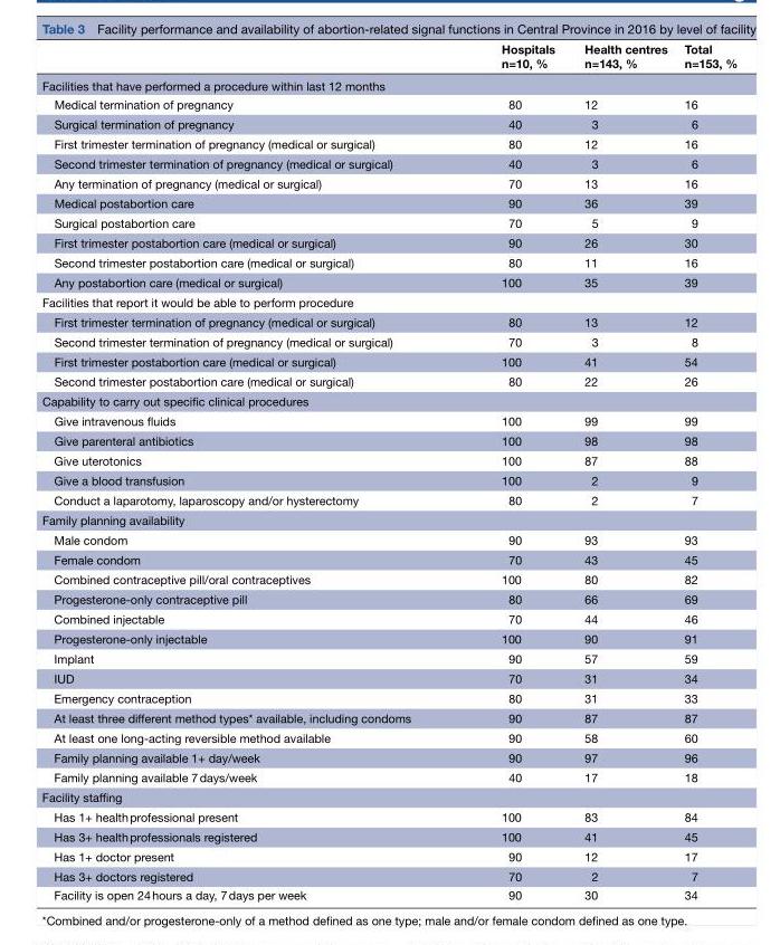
<table><thead><tr><td></td><td>Hospitals n=10, %</td><td>Health centres n=143, %</td><td>Total n=153, %</td></tr></thead><tbody><tr><td colspan="4">Facilities that have performed a procedure within last 12 months</td></tr><tr><td>Medical termination of pregnancy</td><td>80</td><td>12</td><td>16</td></tr><tr><td>Surgical termination of pregnancy</td><td>40</td><td>3</td><td>6</td></tr><tr><td>First trimester termination of pregnancy (medical or surgical)</td><td>80</td><td>12</td><td>16</td></tr><tr><td>Second trimester termination of pregnancy (medical or surgical)</td><td>40</td><td>3</td><td>6</td></tr><tr><td>Any termination of pregnancy (medical or surgical)</td><td>70</td><td>13</td><td>16</td></tr><tr><td>Medical postabortion care</td><td>90</td><td>36</td><td>39</td></tr><tr><td>Surgical postabortion care</td><td>70</td><td>5</td><td>9</td></tr><tr><td>First trimester postabortion care (medical or surgical)</td><td>90</td><td>26</td><td>30</td></tr><tr><td>Second trimester postabortion care (medical or surgical)</td><td>80</td><td>11</td><td>16</td></tr><tr><td>Any postabortion care (medical or surgical)</td><td>100</td><td>35</td><td>39</td></tr><tr><td colspan="4">Facilities that report it would be able to perform procedure</td></tr><tr><td>First trimester termination of pregnancy (medical or surgical)</td><td>80</td><td>13</td><td>12</td></tr><tr><td>Second trimester termination of pregnancy (medical or surgical)</td><td>70</td><td>3</td><td>8</td></tr><tr><td>First trimester postabortion care (medical or surgical)</td><td>100</td><td>41</td><td>54</td></tr><tr><td>Second trimester postabortion care (medical or surgical)</td><td>80</td><td>22</td><td>26</td></tr><tr><td colspan="4">Capability to carry out specific clinical procedures</td></tr><tr><td>Give intravenous fluids</td><td>100</td><td>99</td><td>99</td></tr><tr><td>Give parenteral antibiotics</td><td>100</td><td>98</td><td>98</td></tr><tr><td>Give uterotonics</td><td>100</td><td>87</td><td>88</td></tr><tr><td>Give a blood transfusion</td><td>100</td><td>2</td><td>9</td></tr><tr><td>Conduct a laparotomy, laparoscopy and/or hysterectomy</td><td>80</td><td>2</td><td>7</td></tr><tr><td colspan="4">Family planning availability</td></tr><tr><td>Male condom</td><td>90</td><td>93</td><td>93</td></tr><tr><td>Female condom</td><td>70</td><td>43</td><td>45</td></tr><tr><td>Combined contraceptive pill/oral contraceptives</td><td>100</td><td>80</td><td>82</td></tr><tr><td>Progesterone-only contraceptive pill</td><td>80</td><td>66</td><td>69</td></tr><tr><td>Combined injectable</td><td>70</td><td>44</td><td>46</td></tr><tr><td>Progesterone-only injectable</td><td>100</td><td>90</td><td>91</td></tr><tr><td>Implant</td><td>90</td><td>57</td><td>59</td></tr><tr><td>IUD</td><td>70</td><td>31</td><td>34</td></tr><tr><td>Emergency contraception</td><td>80</td><td>31</td><td>33</td></tr><tr><td>At least three different method types* available, including condoms</td><td>90</td><td>87</td><td>87</td></tr><tr><td>At least one long-acting reversible method available</td><td>90</td><td>58</td><td>60</td></tr><tr><td>Family planning available 1+ day/week</td><td>90</td><td>97</td><td>96</td></tr><tr><td>Family planning available 7 days/week</td><td>40</td><td>17</td><td>18</td></tr><tr><td colspan="4">Facility staffing</td></tr><tr><td>Has 1+ health professional present</td><td>100</td><td>83</td><td>84</td></tr><tr><td>Has 3+ health professionals registered</td><td>100</td><td>41</td><td>45</td></tr><tr><td>Has 1+ doctor present</td><td>90</td><td>12</td><td>17</td></tr><tr><td>Has 3+ doctors registered</td><td>70</td><td>2</td><td>7</td></tr><tr><td>Facility is open 24 hours a day, 7 days per week</td><td>90</td><td>30</td><td>34</td></tr></tbody></table>